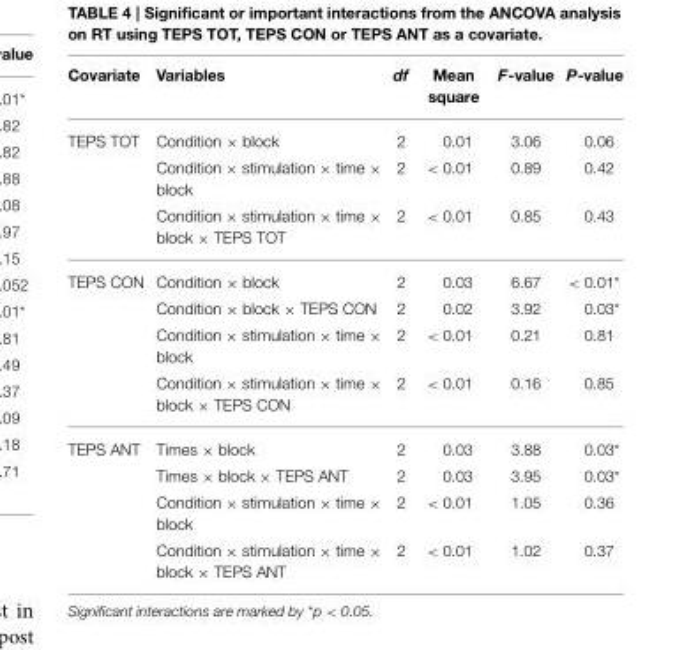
<table><thead><tr><td>Covariate</td><td>Variables</td><td>df</td><td>Mean square</td><td>F-value</td><td>P-value</td></tr></thead><tbody><tr><td rowspan="3">TEPS TOT</td><td>Condition × block</td><td>2</td><td>0.01</td><td>3.06</td><td>0.06</td></tr><tr><td>Condition × stimulation × time × block</td><td>2</td><td>&lt; 0.01</td><td>0.89</td><td>0.42</td></tr><tr><td>Condition × stimulation × time × block × TEPS TOT</td><td>2</td><td>&lt; 0.01</td><td>0.85</td><td>0.43</td></tr><tr><td rowspan="4">TEPS CON</td><td>Condition × block</td><td>2</td><td>0.03</td><td>6.67</td><td>&lt; 0.01*</td></tr><tr><td>Condition × block × TEPS CON</td><td>2</td><td>0.02</td><td>3.92</td><td>0.03*</td></tr><tr><td>Condition × stimulation × time × block</td><td>2</td><td>&lt; 0.01</td><td>0.21</td><td>0.81</td></tr><tr><td>Condition × stimulation × time × block × TEPS CON</td><td>2</td><td>&lt; 0.01</td><td>0.16</td><td>0.85</td></tr><tr><td rowspan="4">TEPS ANT</td><td>Times × block</td><td>2</td><td>0.03</td><td>3.88</td><td>0.03*</td></tr><tr><td>Times × block × TEPS ANT</td><td>2</td><td>0.03</td><td>3.95</td><td>0.03*</td></tr><tr><td>Condition × stimulation × time × block</td><td>2</td><td>&lt; 0.01</td><td>1.05</td><td>0.36</td></tr><tr><td>Condition × stimulation × time × block × TEPS ANT</td><td>2</td><td>&lt; 0.01</td><td>1.02</td><td>0.37</td></tr></tbody></table>